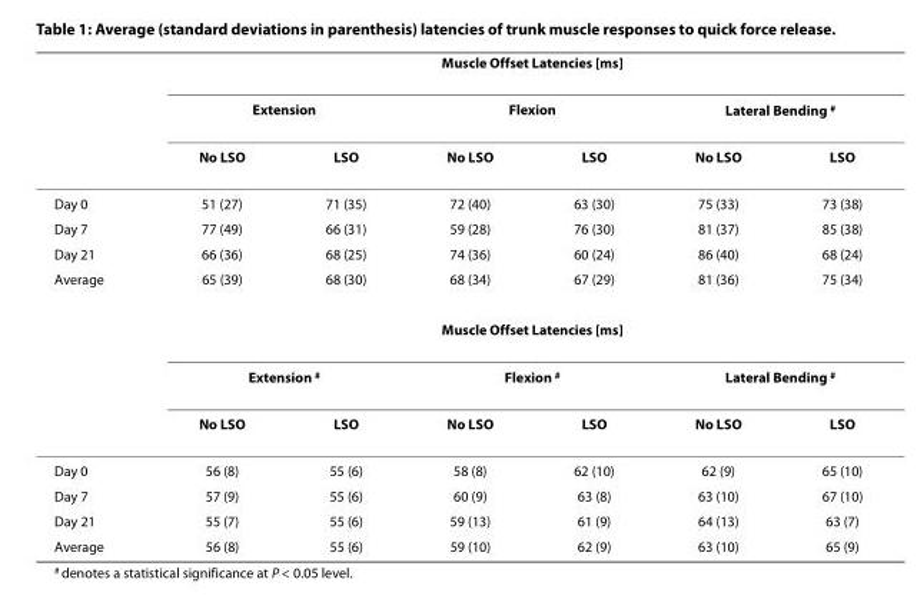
<table><thead><tr><td rowspan="3"></td><td colspan="6">Muscle Offset Latencies [ms]</td></tr><tr><td colspan="2">Extension</td><td colspan="2">Flexion</td><td colspan="2">Lateral Bending <sup>#</sup></td></tr><tr><td>No LSO</td><td>LSO</td><td>No LSO</td><td>LSO</td><td>No LSO</td><td>LSO</td></tr></thead><tbody><tr><td>Day 0</td><td>51 (27)</td><td>71 (35)</td><td>72 (40)</td><td>63 (30)</td><td>75 (33)</td><td>73 (38)</td></tr><tr><td>Day 7</td><td>77 (49)</td><td>66 (31)</td><td>59 (28)</td><td>76 (30)</td><td>81 (37)</td><td>85 (38)</td></tr><tr><td>Day 21</td><td>66 (36)</td><td>68 (25)</td><td>74 (36)</td><td>60 (24)</td><td>86 (40)</td><td>68 (24)</td></tr><tr><td rowspan="4">Average</td><td>65 (39)</td><td>68 (30)</td><td>68 (34)</td><td>67 (29)</td><td>81 (36)</td><td>75 (34)</td></tr><tr><td colspan="6">Muscle Offset Latencies [ms]</td></tr><tr><td colspan="2">Extension <sup>#</sup></td><td colspan="2">Flexion <sup>#</sup></td><td colspan="2">Lateral Bending <sup>#</sup></td></tr><tr><td>No LSO</td><td>LSO</td><td>No LSO</td><td>LSO</td><td>No LSO</td><td>LSO</td></tr><tr><td>Day 0</td><td>56 (8)</td><td>55 (6)</td><td>58 (8)</td><td>62 (10)</td><td>62 (9)</td><td>65 (10)</td></tr><tr><td>Day 7</td><td>57 (9)</td><td>55 (6)</td><td>60 (9)</td><td>63 (8)</td><td>63 (10)</td><td>67 (10)</td></tr><tr><td>Day 21</td><td>55 (7)</td><td>55 (6)</td><td>59 (13)</td><td>61 (9)</td><td>64 (13)</td><td>63 (7)</td></tr><tr><td>Average</td><td>56 (8)</td><td>55 (6)</td><td>59 (10)</td><td>62 (9)</td><td>63 (10)</td><td>65 (9)</td></tr></tbody></table>